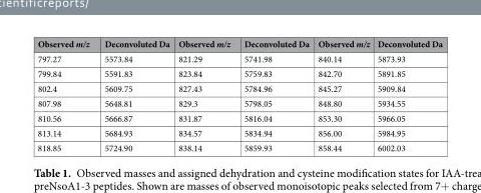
<table><thead><tr><td>Observed m/z</td><td>Deconvoluted Da</td><td>Observed m/z</td><td>Deconvoluted Da</td><td>Observed m/z</td><td>Deconvoluted Da</td></tr></thead><tbody><tr><td>797.27</td><td>5573.84</td><td>821.29</td><td>5741.98</td><td>840.14</td><td>5873.93</td></tr><tr><td>799.84</td><td>5591.83</td><td>823.84</td><td>5759.83</td><td>842.70</td><td>5891.85</td></tr><tr><td>802.4</td><td>5609.75</td><td>827.43</td><td>5784.96</td><td>845.27</td><td>5909.84</td></tr><tr><td>807.98</td><td>5648.81</td><td>829.3</td><td>5798.05</td><td>848.80</td><td>5934.55</td></tr><tr><td>810.56</td><td>5666.87</td><td>831.87</td><td>5816.04</td><td>853.30</td><td>5966.05</td></tr><tr><td>813.14</td><td>5684.93</td><td>834.57</td><td>5834.94</td><td>856.00</td><td>5984.95</td></tr><tr><td>818.85</td><td>5724.90</td><td>838.14</td><td>5859.93</td><td>858.44</td><td>6002.03</td></tr></tbody></table>